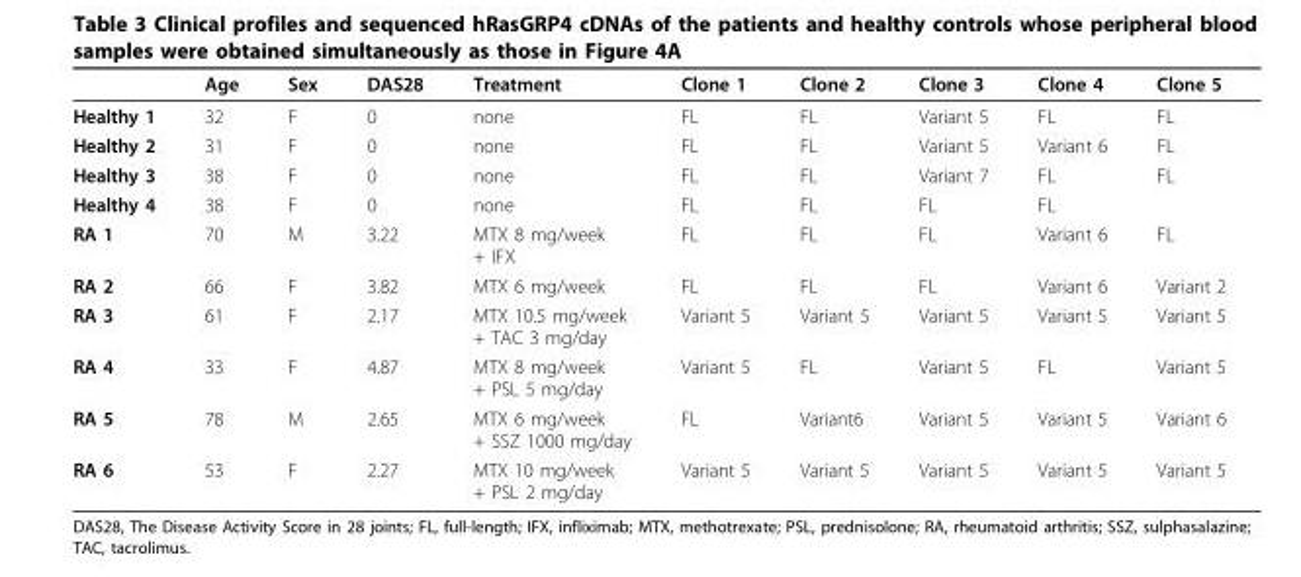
<table><thead><tr><td></td><td>Age</td><td>Sex</td><td>DAS28</td><td>Treatment</td><td>Clone 1</td><td>Clone 2</td><td>Clone 3</td><td>Clone 4</td><td>Clone 5</td></tr></thead><tbody><tr><td>Healthy 1</td><td>32</td><td>F</td><td>0</td><td>none</td><td>FL</td><td>FL</td><td>Variant 5</td><td>FL</td><td>FL</td></tr><tr><td>Healthy 2</td><td>31</td><td>F</td><td>0</td><td>none</td><td>FL</td><td>FL</td><td>Variant 5</td><td>Variant 6</td><td>FL</td></tr><tr><td>Healthy 3</td><td>38</td><td>F</td><td>0</td><td>none</td><td>FL</td><td>FL</td><td>Variant 7</td><td>FL</td><td>FL</td></tr><tr><td>Healthy 4</td><td>38</td><td>F</td><td>0</td><td>none</td><td>FL</td><td>FL</td><td>FL</td><td>FL</td><td></td></tr><tr><td>RA 1</td><td>70</td><td>M</td><td>3.22</td><td>MTX 8 mg/week + IFX</td><td>FL</td><td>FL</td><td>FL</td><td>Variant 6</td><td>FL</td></tr><tr><td>RA 2</td><td>66</td><td>F</td><td>3.82</td><td>MTX 6 mg/week</td><td>FL</td><td>FL</td><td>FL</td><td>Variant 6</td><td>Variant 2</td></tr><tr><td>RA 3</td><td>61</td><td>F</td><td>2.17</td><td>MTX 10.5 mg/week + TAC 3 mg/day</td><td>Variant 5</td><td>Variant 5</td><td>Variant 5</td><td>Variant 5</td><td>Variant 5</td></tr><tr><td>RA 4</td><td>33</td><td>F</td><td>4.87</td><td>MTX 8 mg/week + PSL 5 mg/day</td><td>Variant 5</td><td>FL</td><td>Variant 5</td><td>FL</td><td>Variant 5</td></tr><tr><td>RA 5</td><td>78</td><td>M</td><td>2.65</td><td>MTX 6 mg/week + SSZ 1000 mg/day</td><td>FL</td><td>Variant6</td><td>Variant 5</td><td>Variant 5</td><td>Variant 6</td></tr><tr><td>RA 6</td><td>53</td><td>F</td><td>2.27</td><td>MTX 10 mg/week + PSL 2 mg/day</td><td>Variant 5</td><td>Variant 5</td><td>Variant 5</td><td>Variant 5</td><td>Variant 5</td></tr></tbody></table>